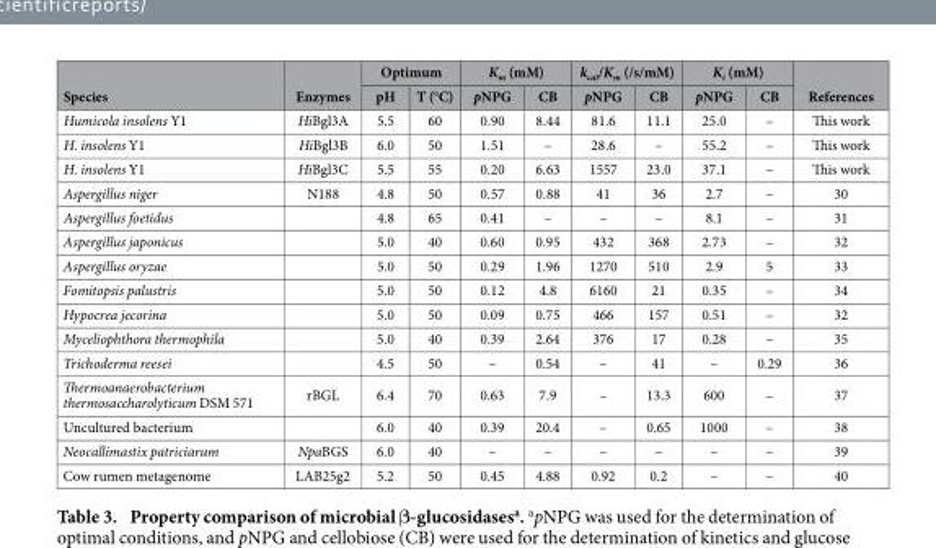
<table><thead><tr><td rowspan="2">Species</td><td rowspan="2">Enzymes</td><td colspan="2">Optimum</td><td colspan="2">K<sub>m</sub> (mM)</td><td colspan="2">k<sub>cat</sub>/K<sub>m</sub> (/s/mM)</td><td colspan="2">K<sub>i</sub> (mM)</td><td rowspan="2">References</td></tr><tr><td>pH</td><td>T (°C)</td><td>pNPG</td><td>CB</td><td>pNPG</td><td>CB</td><td>pNPG</td><td>CB</td></tr></thead><tbody><tr><td>Humicola insolens Y1</td><td>HiBgl3A</td><td>5.5</td><td>60</td><td>0.90</td><td>8.44</td><td>81.6</td><td>11.1</td><td>25.0</td><td>–</td><td>This work</td></tr><tr><td>H. insolens Y1</td><td>HiBgl3B</td><td>6.0</td><td>50</td><td>1.51</td><td>–</td><td>28.6</td><td>–</td><td>55.2</td><td>–</td><td>This work</td></tr><tr><td>H. insolens Y1</td><td>HiBgl3C</td><td>5.5</td><td>55</td><td>0.20</td><td>6.63</td><td>1557</td><td>23.0</td><td>37.1</td><td>–</td><td>This work</td></tr><tr><td>Aspergillus niger</td><td>N188</td><td>4.8</td><td>50</td><td>0.57</td><td>0.88</td><td>41</td><td>36</td><td>2.7</td><td>–</td><td>30</td></tr><tr><td>Aspergillus foetidus</td><td></td><td>4.8</td><td>65</td><td>0.41</td><td>–</td><td>–</td><td>–</td><td>8.1</td><td>–</td><td>31</td></tr><tr><td>Aspergillus japonicus</td><td></td><td>5.0</td><td>40</td><td>0.60</td><td>0.95</td><td>432</td><td>368</td><td>2.73</td><td>–</td><td>32</td></tr><tr><td>Aspergillus oryzae</td><td></td><td>5.0</td><td>50</td><td>0.29</td><td>1.96</td><td>1270</td><td>510</td><td>2.9</td><td>5</td><td>33</td></tr><tr><td>Fomitopsis palustris</td><td></td><td>5.0</td><td>50</td><td>0.12</td><td>4.8</td><td>6160</td><td>21</td><td>0.35</td><td>–</td><td>34</td></tr><tr><td>Hypocrea jecorina</td><td></td><td>5.0</td><td>50</td><td>0.09</td><td>0.75</td><td>466</td><td>157</td><td>0.51</td><td>–</td><td>32</td></tr><tr><td>Myceliophthora thermophila</td><td></td><td>5.0</td><td>40</td><td>0.39</td><td>2.64</td><td>376</td><td>17</td><td>0.28</td><td>–</td><td>35</td></tr><tr><td>Trichoderma reesei</td><td></td><td>4.5</td><td>50</td><td>–</td><td>0.54</td><td>–</td><td>41</td><td>–</td><td>0.29</td><td>36</td></tr><tr><td>Thermoanaerobacterium thermosaccharolyticum DSM 571</td><td>rBGL</td><td>6.4</td><td>70</td><td>0.63</td><td>7.9</td><td>–</td><td>13.3</td><td>600</td><td>–</td><td>37</td></tr><tr><td>Uncultured bacterium</td><td></td><td>6.0</td><td>40</td><td>0.39</td><td>20.4</td><td>–</td><td>0.65</td><td>1000</td><td>–</td><td>38</td></tr><tr><td>Neocallimastix patriciarum</td><td>NpaBGS</td><td>6.0</td><td>40</td><td>–</td><td>–</td><td>–</td><td>–</td><td>–</td><td>–</td><td>39</td></tr><tr><td>Cow rumen metagenome</td><td>LAB25g2</td><td>5.2</td><td>50</td><td>0.45</td><td>4.88</td><td>0.92</td><td>0.2</td><td>–</td><td>–</td><td>40</td></tr></tbody></table>